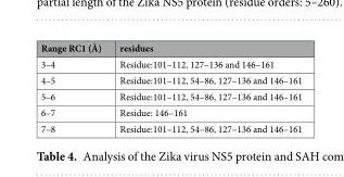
<table><thead><tr><td>Range RC1 (Å)</td><td>residues</td></tr></thead><tbody><tr><td>3–4</td><td>Residue:101–112, 127–136 and 146–161</td></tr><tr><td>4–5</td><td>Residue:101–112, 54–86, 127–136 and 146–161</td></tr><tr><td>5–6</td><td>Residue:101–112, 54–86, 127–136 and 146–161</td></tr><tr><td>6–7</td><td>Residue: 146–161</td></tr><tr><td>7–8</td><td>Residue:101–112, 54–86, 127–136 and 146–161</td></tr></tbody></table>